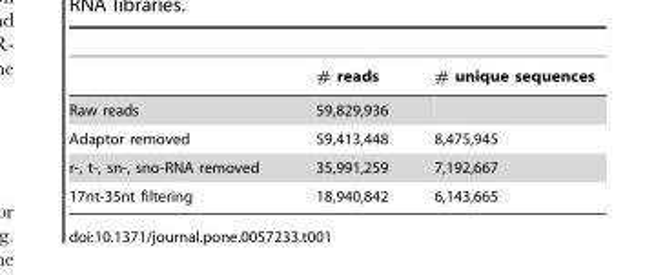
<table><thead><tr><td></td><td># reads</td><td># unique sequences</td></tr></thead><tbody><tr><td>Raw reads</td><td>59,829,936</td><td></td></tr><tr><td>Adaptor removed</td><td>59,413,448</td><td>8,475,945</td></tr><tr><td>r-, t-, sn-, sno-RNA removed</td><td>35,991,259</td><td>7,192,667</td></tr><tr><td>17nt-35nt filtering</td><td>18,940,842</td><td>6,143,665</td></tr></tbody></table>